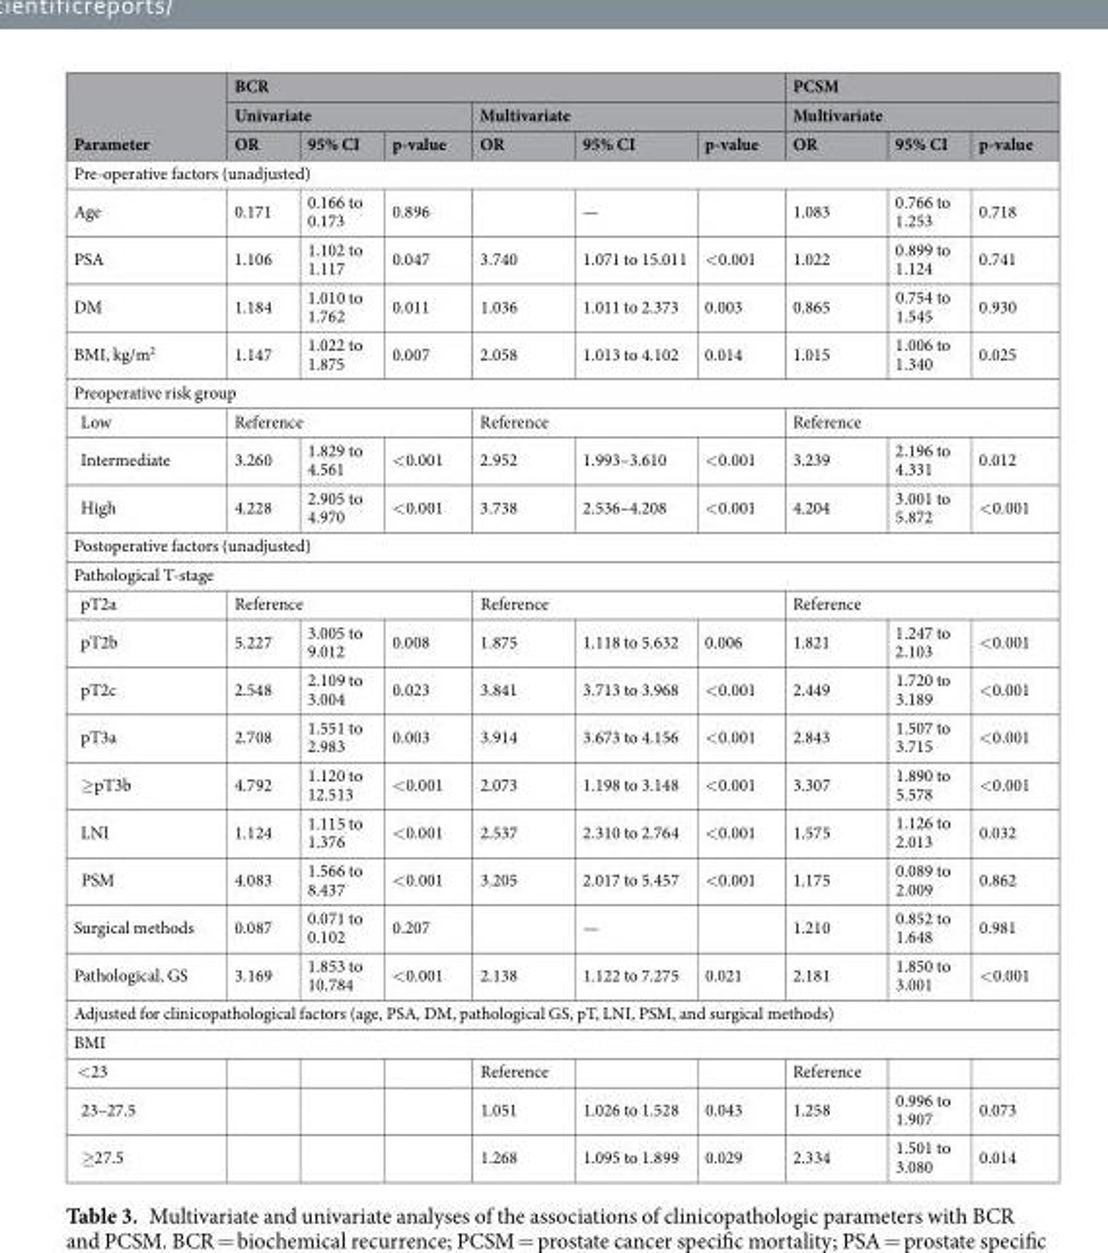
<table><thead><tr><td rowspan="3">Parameter</td><td colspan="6">BCR</td><td rowspan="2" colspan="3">PCSM Multivariate</td></tr><tr><td colspan="3">Univariate</td><td colspan="3">Multivariate</td></tr><tr><td>OR</td><td>95% CI</td><td>p-value</td><td>OR</td><td>95% CI</td><td>p-value</td><td>OR</td><td>95% CI</td><td>p-value</td></tr></thead><tbody><tr><td colspan="10">Pre-operative factors (unadjusted)</td></tr><tr><td>Age</td><td>0.171</td><td>0.166 to 0.173</td><td>0.896</td><td></td><td>—</td><td></td><td>1.083</td><td>0.766 to 1.253</td><td>0.718</td></tr><tr><td>PSA</td><td>1.106</td><td>1.102 to 1.117</td><td>0.047</td><td>3.740</td><td>1.071 to 15.011</td><td>&lt;0.001</td><td>1.022</td><td>0.899 to 1.124</td><td>0.741</td></tr><tr><td>DM</td><td>1.184</td><td>1.010 to 1.762</td><td>0.011</td><td>1.036</td><td>1.011 to 2.373</td><td>0.003</td><td>0.865</td><td>0.754 to 1.545</td><td>0.930</td></tr><tr><td>BMI, kg/m<sup>2</sup></td><td>1.147</td><td>1.022 to 1.875</td><td>0.007</td><td>2.058</td><td>1.013 to 4.102</td><td>0.014</td><td>1.015</td><td>1.006 to 1.340</td><td>0.025</td></tr><tr><td colspan="10">Preoperative risk group</td></tr><tr><td>Low</td><td colspan="3">Reference</td><td colspan="3">Reference</td><td colspan="3">Reference</td></tr><tr><td>Intermediate</td><td>3.260</td><td>1.829 to 4.561</td><td>&lt;0.001</td><td>2.952</td><td>1.993–3.610</td><td>&lt;0.001</td><td>3.239</td><td>2.196 to 4.331</td><td>0.012</td></tr><tr><td>High</td><td>4.228</td><td>2.905 to 4.970</td><td>&lt;0.001</td><td>3.738</td><td>2.536–4.208</td><td>&lt;0.001</td><td>4.204</td><td>3.001 to 5.872</td><td>&lt;0.001</td></tr><tr><td colspan="10">Postoperative factors (unadjusted)</td></tr><tr><td colspan="10">Pathological T-stage</td></tr><tr><td>pT2a</td><td colspan="3">Reference</td><td colspan="3">Reference</td><td colspan="3">Reference</td></tr><tr><td>pT2b</td><td>5.227</td><td>3.005 to 9.012</td><td>0.008</td><td>1.875</td><td>1.118 to 5.632</td><td>0.006</td><td>1.821</td><td>1.247 to 2.103</td><td>&lt;0.001</td></tr><tr><td>pT2c</td><td>2.548</td><td>2.109 to 3.004</td><td>0.023</td><td>3.841</td><td>3.713 to 3.968</td><td>&lt;0.001</td><td>2.449</td><td>1.720 to 3.189</td><td>&lt;0.001</td></tr><tr><td>pT3a</td><td>2.708</td><td>1.551 to 2.983</td><td>0.003</td><td>3.914</td><td>3.673 to 4.156</td><td>&lt;0.001</td><td>2.843</td><td>1.507 to 3.715</td><td>&lt;0.001</td></tr><tr><td>≥pT3b</td><td>4.792</td><td>1.120 to 12.513</td><td>&lt;0.001</td><td>2.073</td><td>1.198 to 3.148</td><td>&lt;0.001</td><td>3.307</td><td>1.890 to 5.578</td><td>&lt;0.001</td></tr><tr><td>LNI</td><td>1.124</td><td>1.115 to 1.376</td><td>&lt;0.001</td><td>2.537</td><td>2.310 to 2.764</td><td>&lt;0.001</td><td>1.575</td><td>1.126 to 2.013</td><td>0.032</td></tr><tr><td>PSM</td><td>4.083</td><td>1.566 to 8.437</td><td>&lt;0.001</td><td>3.205</td><td>2.017 to 5.457</td><td>&lt;0.001</td><td>1.175</td><td>0.089 to 2.009</td><td>0.862</td></tr><tr><td>Surgical methods</td><td>0.087</td><td>0.071 to 0.102</td><td>0.207</td><td></td><td>—</td><td></td><td>1.210</td><td>0.852 to 1.648</td><td>0.981</td></tr><tr><td>Pathological, GS</td><td>3.169</td><td>1.853 to 10.784</td><td>&lt;0.001</td><td>2.138</td><td>1.122 to 7.275</td><td>0.021</td><td>2.181</td><td>1.850 to 3.001</td><td>&lt;0.001</td></tr><tr><td colspan="10">Adjusted for clinicopathological factors (age, PSA, DM, pathological GS, pT, LNI, PSM, and surgical methods)</td></tr><tr><td colspan="10">BMI</td></tr><tr><td>&lt;23</td><td></td><td></td><td></td><td>Reference</td><td></td><td></td><td>Reference</td><td></td><td></td></tr><tr><td>23–27.5</td><td></td><td></td><td></td><td>1.051</td><td>1.026 to 1.528</td><td>0.043</td><td>1.258</td><td>0.996 to 1.907</td><td>0.073</td></tr><tr><td>≥27.5</td><td></td><td></td><td></td><td>1.268</td><td>1.095 to 1.899</td><td>0.029</td><td>2.334</td><td>1.501 to 3.080</td><td>0.014</td></tr></tbody></table>